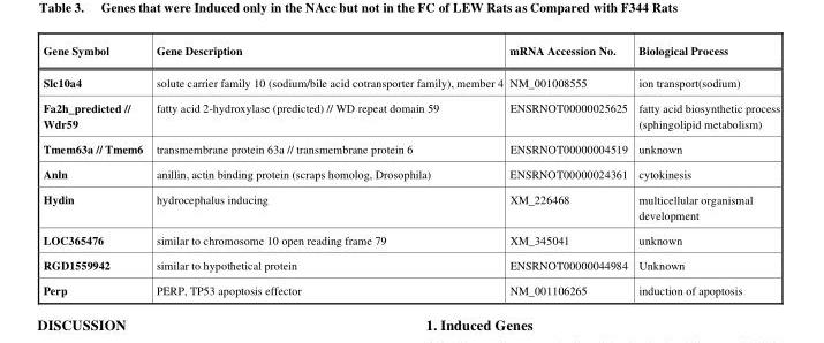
<table><thead><tr><td>Gene Symbol</td><td>Gene Description</td><td>mRNA Accession No.</td><td>Biological Process</td></tr></thead><tbody><tr><td>Slc10a4</td><td>solute carrier family 10 (sodium/bile acid cotransporter family), member 4</td><td>NM_001008555</td><td>ion transport(sodium)</td></tr><tr><td>Fa2h_predicted // Wdr59</td><td>fatty acid 2-hydroxylase (predicted) // WD repeat domain 59</td><td>ENSRNOT00000025625</td><td>fatty acid biosynthetic process (sphingolipid metabolism)</td></tr><tr><td>Tmem63a // Tmem6</td><td>transmembrane protein 63a // transmembrane protein 6</td><td>ENSRNOT00000004519</td><td>unknown</td></tr><tr><td>Anln</td><td>anillin, actin binding protein (scraps homolog, Drosophila)</td><td>ENSRNOT00000024361</td><td>cytokinesis</td></tr><tr><td>Hydin</td><td>hydrocephalus inducing</td><td>XM_226468</td><td>multicellular organismal development</td></tr><tr><td>LOC365476</td><td>similar to chromosome 10 open reading frame 79</td><td>XM_345041</td><td>unknown</td></tr><tr><td>RGD1559942</td><td>similar to hypothetical protein</td><td>ENSRNOT00000044984</td><td>Unknown</td></tr><tr><td>Perp</td><td>PERP, TP53 apoptosis effector</td><td>NM_001106265</td><td>induction of apoptosis</td></tr></tbody></table>